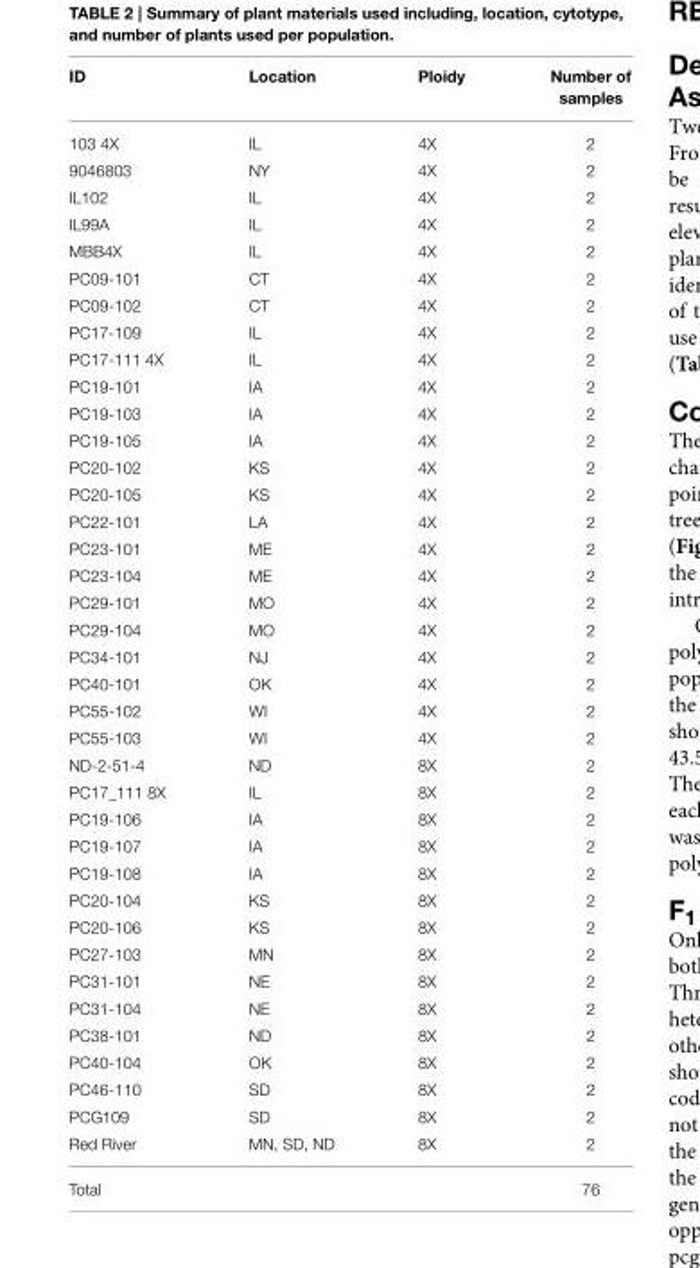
<table><thead><tr><td>ID</td><td>Location</td><td>Ploidy</td><td>Number of samples</td></tr></thead><tbody><tr><td>103 4X</td><td>IL</td><td>4X</td><td>2</td></tr><tr><td>9046803</td><td>NY</td><td>4X</td><td>2</td></tr><tr><td>IL102</td><td>IL</td><td>4X</td><td>2</td></tr><tr><td>IL99A</td><td>IL</td><td>4X</td><td>2</td></tr><tr><td>MBB4X</td><td>IL</td><td>4X</td><td>2</td></tr><tr><td>PC09-101</td><td>CT</td><td>4X</td><td>2</td></tr><tr><td>PC09-102</td><td>CT</td><td>4X</td><td>2</td></tr><tr><td>PC17-109</td><td>IL</td><td>4X</td><td>2</td></tr><tr><td>PC17-111 4X</td><td>IL</td><td>4X</td><td>2</td></tr><tr><td>PC19-101</td><td>IA</td><td>4X</td><td>2</td></tr><tr><td>PC19-103</td><td>IA</td><td>4X</td><td>2</td></tr><tr><td>PC19-105</td><td>IA</td><td>4X</td><td>2</td></tr><tr><td>PC20-102</td><td>KS</td><td>4X</td><td>2</td></tr><tr><td>PC20-105</td><td>KS</td><td>4X</td><td>2</td></tr><tr><td>PC22-101</td><td>LA</td><td>4X</td><td>2</td></tr><tr><td>PC23-101</td><td>ME</td><td>4X</td><td>2</td></tr><tr><td>PC23-104</td><td>ME</td><td>4X</td><td>2</td></tr><tr><td>PC29-101</td><td>MO</td><td>4X</td><td>2</td></tr><tr><td>PC29-104</td><td>MO</td><td>4X</td><td>2</td></tr><tr><td>PC34-101</td><td>NJ</td><td>4X</td><td>2</td></tr><tr><td>PC40-101</td><td>OK</td><td>4X</td><td>2</td></tr><tr><td>PC55-102</td><td>WI</td><td>4X</td><td>2</td></tr><tr><td>PC55-103</td><td>WI</td><td>4X</td><td>2</td></tr><tr><td>ND-2-51-4</td><td>ND</td><td>8X</td><td>2</td></tr><tr><td>PC17_111 8X</td><td>IL</td><td>8X</td><td>2</td></tr><tr><td>PC19-106</td><td>IA</td><td>8X</td><td>2</td></tr><tr><td>PC19-107</td><td>IA</td><td>8X</td><td>2</td></tr><tr><td>PC19-108</td><td>IA</td><td>8X</td><td>2</td></tr><tr><td>PC20-104</td><td>KS</td><td>8X</td><td>2</td></tr><tr><td>PC20-106</td><td>KS</td><td>8X</td><td>2</td></tr><tr><td>PC27-103</td><td>MN</td><td>8X</td><td>2</td></tr><tr><td>PC31-101</td><td>NE</td><td>8X</td><td>2</td></tr><tr><td>PC31-104</td><td>NE</td><td>8X</td><td>2</td></tr><tr><td>PC38-101</td><td>ND</td><td>8X</td><td>2</td></tr><tr><td>PC40-104</td><td>OK</td><td>8X</td><td>2</td></tr><tr><td>PC46-110</td><td>SD</td><td>8X</td><td>2</td></tr><tr><td>PCG109</td><td>SD</td><td>8X</td><td>2</td></tr><tr><td>Red River</td><td>MN, SD, ND</td><td>8X</td><td>2</td></tr><tr><td>Total</td><td></td><td></td><td>76</td></tr></tbody></table>